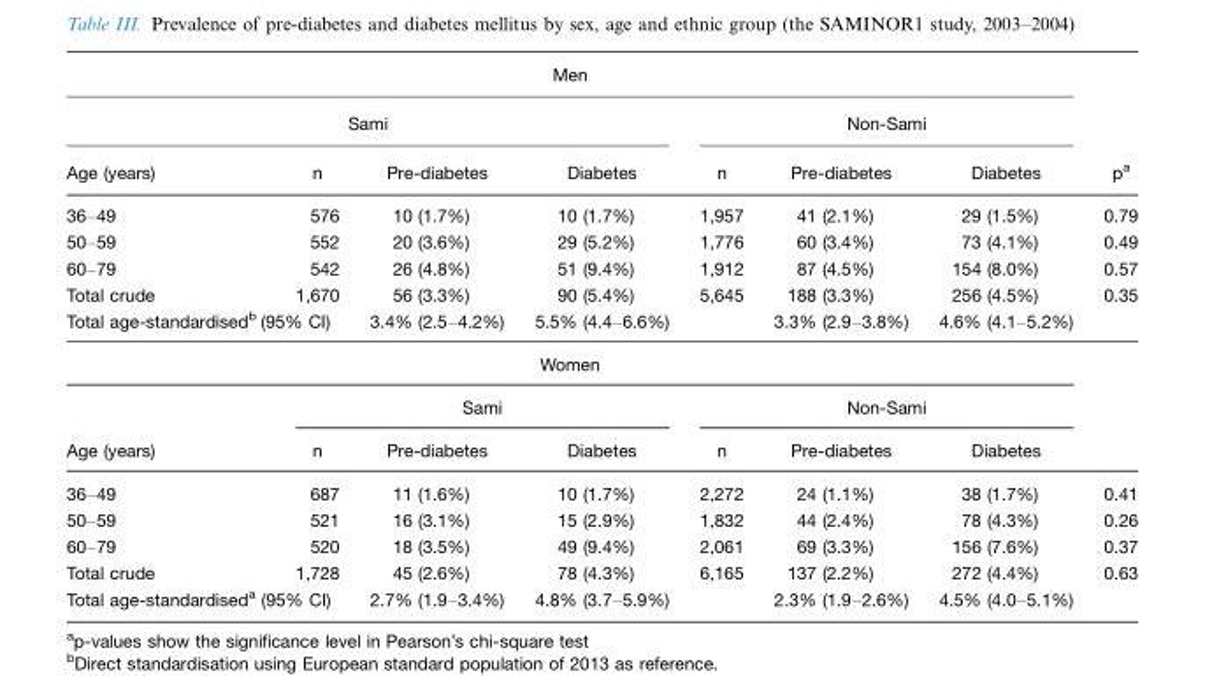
<table><thead><tr><td colspan="7">Men</td><td rowspan="3">p<sup>a</sup></td></tr><tr><td colspan="4">Sami</td><td colspan="3">Non-Sami</td></tr><tr><td>Age (years)</td><td>n</td><td>Pre-diabetes</td><td>Diabetes</td><td>n</td><td>Pre-diabetes</td><td>Diabetes</td></tr></thead><tbody><tr><td>36–49</td><td>576</td><td>10 (1.7%)</td><td>10 (1.7%)</td><td>1,957</td><td>41 (2.1%)</td><td>29 (1.5%)</td><td>0.79</td></tr><tr><td>50–59</td><td>552</td><td>20 (3.6%)</td><td>29 (5.2%)</td><td>1,776</td><td>60 (3.4%)</td><td>73 (4.1%)</td><td>0.49</td></tr><tr><td>60–79</td><td>542</td><td>26 (4.8%)</td><td>51 (9.4%)</td><td>1,912</td><td>87 (4.5%)</td><td>154 (8.0%)</td><td>0.57</td></tr><tr><td>Total crude</td><td>1,670</td><td>56 (3.3%)</td><td>90 (5.4%)</td><td>5,645</td><td>188 (3.3%)</td><td>256 (4.5%)</td><td>0.35</td></tr><tr><td colspan="2">Total age-standardised<sup>b</sup> (95% CI)</td><td>3.4% (2.5–4.2%)</td><td>5.5% (4.4–6.6%)</td><td></td><td>3.3% (2.9–3.8%)</td><td>4.6% (4.1–5.2%)</td><td></td></tr><tr><td colspan="8">Women</td></tr><tr><td></td><td colspan="3">Sami</td><td colspan="3">Non-Sami</td><td></td></tr><tr><td>Age (years)</td><td>n</td><td>Pre-diabetes</td><td>Diabetes</td><td>n</td><td>Pre-diabetes</td><td>Diabetes</td><td></td></tr><tr><td>36–49</td><td>687</td><td>11 (1.6%)</td><td>10 (1.7%)</td><td>2,272</td><td>24 (1.1%)</td><td>38 (1.7%)</td><td>0.41</td></tr><tr><td>50–59</td><td>521</td><td>16 (3.1%)</td><td>15 (2.9%)</td><td>1,832</td><td>44 (2.4%)</td><td>78 (4.3%)</td><td>0.26</td></tr><tr><td>60–79</td><td>520</td><td>18 (3.5%)</td><td>49 (9.4%)</td><td>2,061</td><td>69 (3.3%)</td><td>156 (7.6%)</td><td>0.37</td></tr><tr><td>Total crude</td><td>1,728</td><td>45 (2.6%)</td><td>78 (4.3%)</td><td>6,165</td><td>137 (2.2%)</td><td>272 (4.4%)</td><td>0.63</td></tr><tr><td colspan="2">Total age-standardised<sup>a</sup> (95% CI)</td><td>2.7% (1.9–3.4%)</td><td>4.8% (3.7–5.9%)</td><td></td><td>2.3% (1.9–2.6%)</td><td>4.5% (4.0–5.1%)</td><td></td></tr></tbody></table>